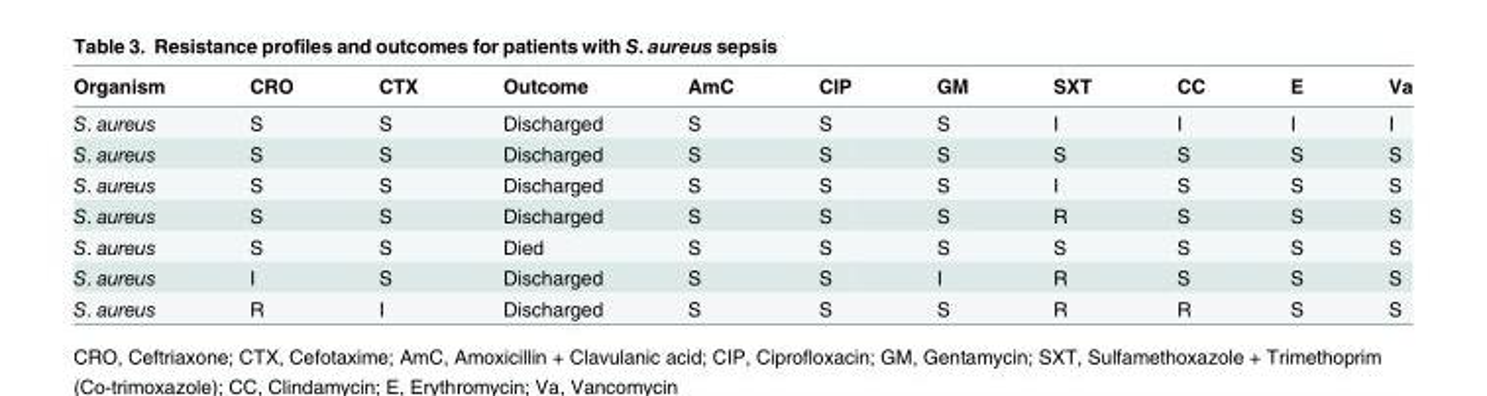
<table><thead><tr><td>Organism</td><td>CRO</td><td>CTX</td><td>Outcome</td><td>AmC</td><td>CIP</td><td>GM</td><td>SXT</td><td>CC</td><td>E</td><td>Va</td></tr></thead><tbody><tr><td>S. aureus</td><td>S</td><td>S</td><td>Discharged</td><td>S</td><td>S</td><td>S</td><td>I</td><td>I</td><td>I</td><td>I</td></tr><tr><td>S. aureus</td><td>S</td><td>S</td><td>Discharged</td><td>S</td><td>S</td><td>S</td><td>S</td><td>S</td><td>S</td><td>S</td></tr><tr><td>S. aureus</td><td>S</td><td>S</td><td>Discharged</td><td>S</td><td>S</td><td>S</td><td>I</td><td>S</td><td>S</td><td>S</td></tr><tr><td>S. aureus</td><td>S</td><td>S</td><td>Discharged</td><td>S</td><td>S</td><td>S</td><td>R</td><td>S</td><td>S</td><td>S</td></tr><tr><td>S. aureus</td><td>S</td><td>S</td><td>Died</td><td>S</td><td>S</td><td>S</td><td>S</td><td>S</td><td>S</td><td>S</td></tr><tr><td>S. aureus</td><td>I</td><td>S</td><td>Discharged</td><td>S</td><td>S</td><td>I</td><td>R</td><td>S</td><td>S</td><td>S</td></tr><tr><td>S. aureus</td><td>R</td><td>I</td><td>Discharged</td><td>S</td><td>S</td><td>S</td><td>R</td><td>R</td><td>S</td><td>S</td></tr></tbody></table>